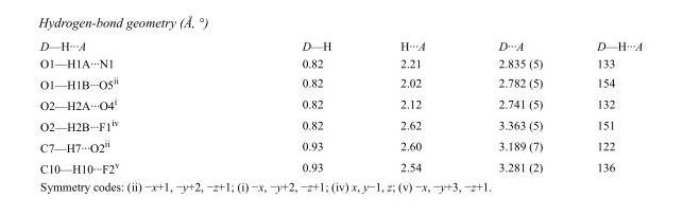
<table><tbody><tr><td>D—H···A</td><td>D—H</td><td>H···A</td><td>D···A</td><td>D—H···A</td></tr><tr><td>O1—H1A···N1</td><td>0.82</td><td>2.21</td><td>2.835 (5)</td><td>133</td></tr><tr><td>O1—H1B···O5<sup>ii</sup></td><td>0.82</td><td>2.02</td><td>2.782 (5)</td><td>154</td></tr><tr><td>O2—H2A···O4<sup>i</sup></td><td>0.82</td><td>2.12</td><td>2.741 (5)</td><td>132</td></tr><tr><td>O2—H2B···F1<sup>iv</sup></td><td>0.82</td><td>2.62</td><td>3.363 (5)</td><td>151</td></tr><tr><td>C7—H7···O2<sup>ii</sup></td><td>0.93</td><td>2.60</td><td>3.189 (7)</td><td>122</td></tr><tr><td>C10—H10···F2<sup>v</sup></td><td>0.93</td><td>2.54</td><td>3.281 (2)</td><td>136</td></tr></tbody></table>